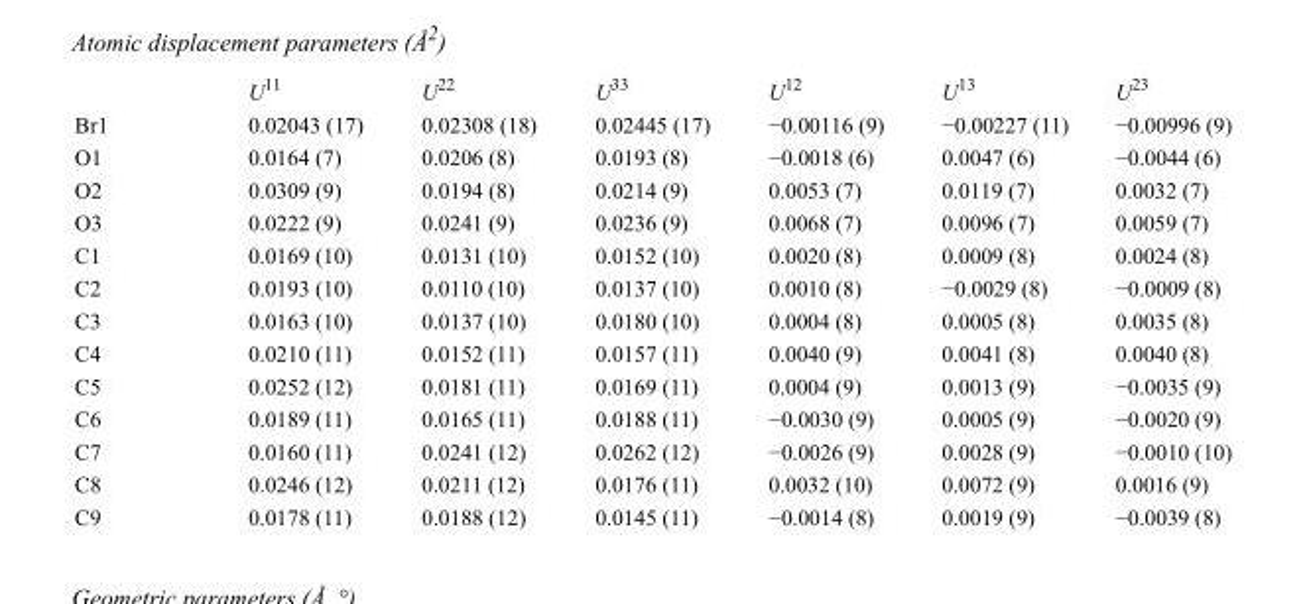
<table><thead><tr><td></td><td>U<sup>11</sup></td><td>U<sup>22</sup></td><td>U<sup>33</sup></td><td>U<sup>12</sup></td><td>U<sup>13</sup></td><td>U<sup>23</sup></td></tr></thead><tbody><tr><td>Br1</td><td>0.02043 (17)</td><td>0.02308 (18)</td><td>0.02445 (17)</td><td>−0.00116 (9)</td><td>−0.00227 (11)</td><td>−0.00996 (9)</td></tr><tr><td>O1</td><td>0.0164 (7)</td><td>0.0206 (8)</td><td>0.0193 (8)</td><td>−0.0018 (6)</td><td>0.0047 (6)</td><td>−0.0044 (6)</td></tr><tr><td>O2</td><td>0.0309 (9)</td><td>0.0194 (8)</td><td>0.0214 (9)</td><td>0.0053 (7)</td><td>0.0119 (7)</td><td>0.0032 (7)</td></tr><tr><td>O3</td><td>0.0222 (9)</td><td>0.0241 (9)</td><td>0.0236 (9)</td><td>0.0068 (7)</td><td>0.0096 (7)</td><td>0.0059 (7)</td></tr><tr><td>C1</td><td>0.0169 (10)</td><td>0.0131 (10)</td><td>0.0152 (10)</td><td>0.0020 (8)</td><td>0.0009 (8)</td><td>0.0024 (8)</td></tr><tr><td>C2</td><td>0.0193 (10)</td><td>0.0110 (10)</td><td>0.0137 (10)</td><td>0.0010 (8)</td><td>−0.0029 (8)</td><td>−0.0009 (8)</td></tr><tr><td>C3</td><td>0.0163 (10)</td><td>0.0137 (10)</td><td>0.0180 (10)</td><td>0.0004 (8)</td><td>0.0005 (8)</td><td>0.0035 (8)</td></tr><tr><td>C4</td><td>0.0210 (11)</td><td>0.0152 (11)</td><td>0.0157 (11)</td><td>0.0040 (9)</td><td>0.0041 (8)</td><td>0.0040 (8)</td></tr><tr><td>C5</td><td>0.0252 (12)</td><td>0.0181 (11)</td><td>0.0169 (11)</td><td>0.0004 (9)</td><td>0.0013 (9)</td><td>−0.0035 (9)</td></tr><tr><td>C6</td><td>0.0189 (11)</td><td>0.0165 (11)</td><td>0.0188 (11)</td><td>−0.0030 (9)</td><td>0.0005 (9)</td><td>−0.0020 (9)</td></tr><tr><td>C7</td><td>0.0160 (11)</td><td>0.0241 (12)</td><td>0.0262 (12)</td><td>−0.0026 (9)</td><td>0.0028 (9)</td><td>−0.0010 (10)</td></tr><tr><td>C8</td><td>0.0246 (12)</td><td>0.0211 (12)</td><td>0.0176 (11)</td><td>0.0032 (10)</td><td>0.0072 (9)</td><td>0.0016 (9)</td></tr><tr><td>C9</td><td>0.0178 (11)</td><td>0.0188 (12)</td><td>0.0145 (11)</td><td>−0.0014 (8)</td><td>0.0019 (9)</td><td>−0.0039 (8)</td></tr></tbody></table>